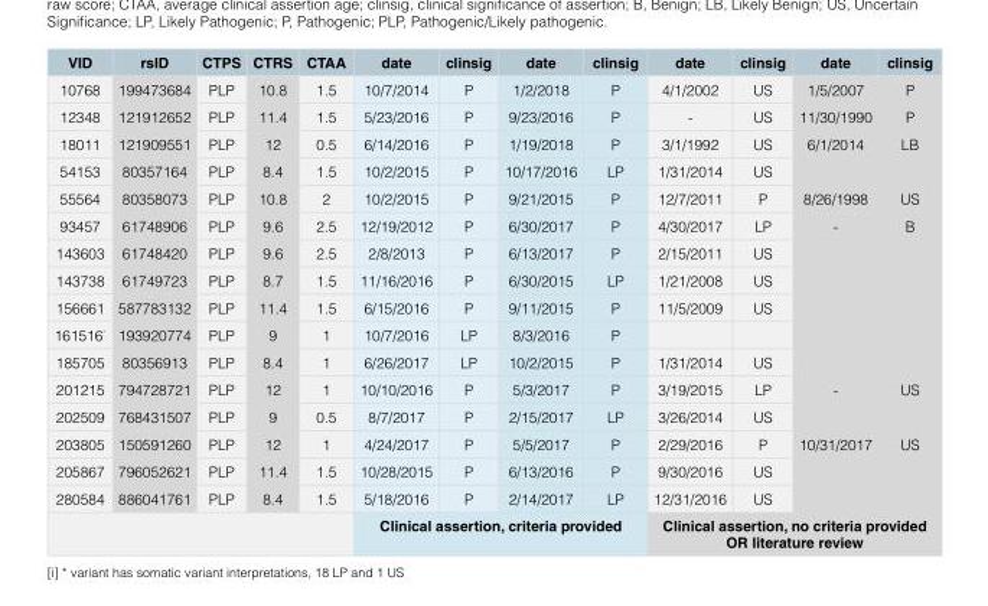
<table><thead><tr><td>VID</td><td>rsID</td><td>CTPS</td><td>CTRS</td><td>CTAA</td><td>date</td><td>clinsig</td><td>date</td><td>clinsig</td><td>date</td><td>clinsig</td><td>date</td><td>clinsig</td></tr></thead><tbody><tr><td>10768</td><td>199473684</td><td>PLP</td><td>10.8</td><td>1.5</td><td>10/7/2014</td><td>P</td><td>1/2/2018</td><td>P</td><td>4/1/2002</td><td>US</td><td>1/5/2007</td><td>P</td></tr><tr><td>12348</td><td>121912652</td><td>PLP</td><td>11.4</td><td>1.5</td><td>5/23/2016</td><td>P</td><td>9/23/2016</td><td>P</td><td>-</td><td>US</td><td>11/30/1990</td><td>P</td></tr><tr><td>18011</td><td>121909551</td><td>PLP</td><td>12</td><td>0.5</td><td>6/14/2016</td><td>P</td><td>1/19/2018</td><td>P</td><td>3/1/1992</td><td>US</td><td>6/1/2014</td><td>LB</td></tr><tr><td>54153</td><td>80357164</td><td>PLP</td><td>8.4</td><td>1.5</td><td>10/2/2015</td><td>P</td><td>10/17/2016</td><td>LP</td><td>1/31/2014</td><td>US</td><td></td><td></td></tr><tr><td>55564</td><td>80358073</td><td>PLP</td><td>10.8</td><td>2</td><td>10/2/2015</td><td>P</td><td>9/21/2015</td><td>P</td><td>12/7/2011</td><td>P</td><td>8/26/1998</td><td>US</td></tr><tr><td>93457</td><td>61748906</td><td>PLP</td><td>9.6</td><td>2.5</td><td>12/19/2012</td><td>P</td><td>6/30/2017</td><td>P</td><td>4/30/2017</td><td>LP</td><td>-</td><td>B</td></tr><tr><td>143603</td><td>61748420</td><td>PLP</td><td>9.6</td><td>2.5</td><td>2/8/2013</td><td>P</td><td>6/13/2017</td><td>P</td><td>2/15/2011</td><td>US</td><td></td><td></td></tr><tr><td>143738</td><td>61749723</td><td>PLP</td><td>8.7</td><td>1.5</td><td>11/16/2016</td><td>P</td><td>6/30/2015</td><td>LP</td><td>1/21/2008</td><td>US</td><td></td><td></td></tr><tr><td>156661</td><td>587783132</td><td>PLP</td><td>11.4</td><td>1.5</td><td>6/15/2016</td><td>P</td><td>9/11/2015</td><td>P</td><td>11/5/2009</td><td>US</td><td></td><td></td></tr><tr><td>161516*</td><td>193920774</td><td>PLP</td><td>9</td><td>1</td><td>10/7/2016</td><td>LP</td><td>8/3/2016</td><td>P</td><td></td><td></td><td></td><td></td></tr><tr><td>185705</td><td>80356913</td><td>PLP</td><td>8.4</td><td>1</td><td>6/26/2017</td><td>LP</td><td>10/2/2015</td><td>P</td><td>1/31/2014</td><td>US</td><td></td><td></td></tr><tr><td>201215</td><td>794728721</td><td>PLP</td><td>12</td><td>1</td><td>10/10/2016</td><td>P</td><td>5/3/2017</td><td>P</td><td>3/19/2015</td><td>LP</td><td>-</td><td>US</td></tr><tr><td>202509</td><td>768431507</td><td>PLP</td><td>9</td><td>0.5</td><td>8/7/2017</td><td>P</td><td>2/15/2017</td><td>LP</td><td>3/26/2014</td><td>US</td><td></td><td></td></tr><tr><td>203805</td><td>150591260</td><td>PLP</td><td>12</td><td>1</td><td>4/24/2017</td><td>P</td><td>5/5/2017</td><td>P</td><td>2/29/2016</td><td>P</td><td>10/31/2017</td><td>US</td></tr><tr><td>205867</td><td>796052621</td><td>PLP</td><td>11.4</td><td>1.5</td><td>10/28/2015</td><td>P</td><td>6/13/2016</td><td>P</td><td>9/30/2016</td><td>US</td><td></td><td></td></tr><tr><td>280584</td><td>886041761</td><td>PLP</td><td>8.4</td><td>1.5</td><td>5/18/2016</td><td>P</td><td>2/14/2017</td><td>LP</td><td>12/31/2016</td><td>US</td><td></td><td></td></tr><tr><td colspan="5"></td><td colspan="4">Clinical assertion, criteria provided</td><td colspan="4">Clinical assertion, no criteria provided OR literature review</td></tr></tbody></table>